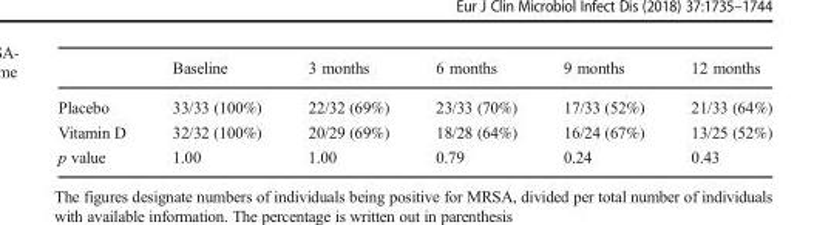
<table><thead><tr><td></td><td>Baseline</td><td>3 months</td><td>6 months</td><td>9 months</td><td>12 months</td></tr></thead><tbody><tr><td>Placebo</td><td>33/33 (100%)</td><td>22/32 (69%)</td><td>23/33 (70%)</td><td>17/33 (52%)</td><td>21/33 (64%)</td></tr><tr><td>Vitamin D</td><td>32/32 (100%)</td><td>20/29 (69%)</td><td>18/28 (64%)</td><td>16/24 (67%)</td><td>13/25 (52%)</td></tr><tr><td>p value</td><td>1.00</td><td>1.00</td><td>0.79</td><td>0.24</td><td>0.43</td></tr></tbody></table>